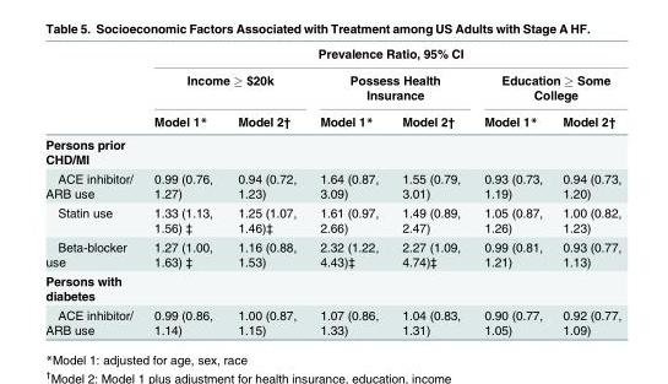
<table><thead><tr><td rowspan="3"></td><td colspan="6">Prevalence Ratio, 95% CI</td></tr><tr><td colspan="2">Income ≥ $20k</td><td colspan="2">Possess Health Insurance</td><td colspan="2">Education ≥ Some College</td></tr><tr><td>Model 1*</td><td>Model 2†</td><td>Model 1*</td><td>Model 2†</td><td>Model 1*</td><td>Model 2†</td></tr></thead><tbody><tr><td colspan="7">Persons prior CHD/MI</td></tr><tr><td>ACE inhibitor/ ARB use</td><td>0.99 (0.76, 1.27)</td><td>0.94 (0.72, 1.23)</td><td>1.64 (0.87, 3.09)</td><td>1.55 (0.79, 3.01)</td><td>0.93 (0.73, 1.19)</td><td>0.94 (0.73, 1.20)</td></tr><tr><td>Statin use</td><td>1.33 (1.13, 1.56) ‡</td><td>1.25 (1.07, 1.46)‡</td><td>1.61 (0.97, 2.66)</td><td>1.49 (0.89, 2.47)</td><td>1.05 (0.87, 1.26)</td><td>1.00 (0.82, 1.23)</td></tr><tr><td>Beta-blocker use</td><td>1.27 (1.00, 1.63) ‡</td><td>1.16 (0.88, 1.53)</td><td>2.32 (1.22, 4.43)‡</td><td>2.27 (1.09, 4.74)‡</td><td>0.99 (0.81, 1.21)</td><td>0.93 (0.77, 1.13)</td></tr><tr><td colspan="7">Persons with diabetes</td></tr><tr><td>ACE inhibitor/ ARB use</td><td>0.99 (0.86, 1.14)</td><td>1.00 (0.87, 1.15)</td><td>1.07 (0.86, 1.33)</td><td>1.04 (0.83, 1.31)</td><td>0.90 (0.77, 1.05)</td><td>0.92 (0.77, 1.09)</td></tr></tbody></table>